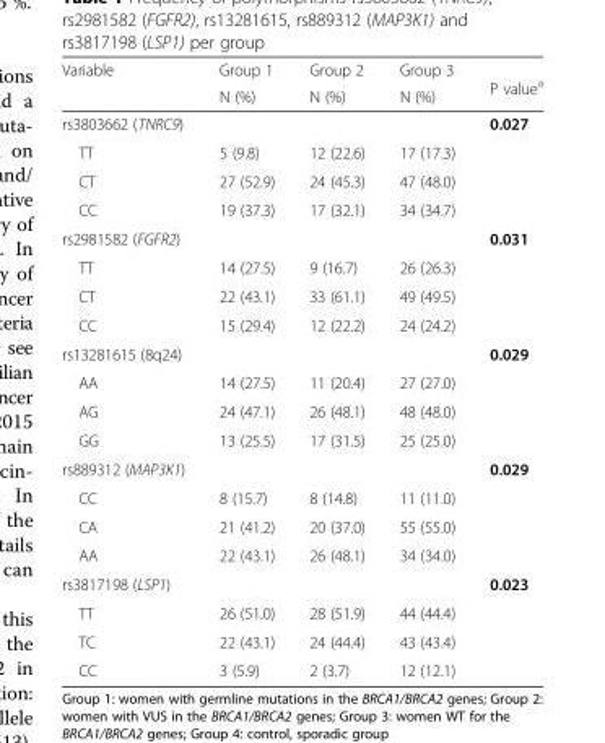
<table><thead><tr><td rowspan="2">Variable</td><td rowspan="2">Group 1 N (%)</td><td rowspan="2">Group 2 N (%)</td><td rowspan="2">Group 3 N (%)</td><td rowspan="2">P value<sup>a</sup></td></tr><tr></tr></thead><tbody><tr><td colspan="4">rs3803662 (TNRC9)</td><td rowspan="4">0.027</td></tr><tr><td>TT</td><td>5 (9.8)</td><td>12 (22.6)</td><td>17 (17.3)</td></tr><tr><td>CT</td><td>27 (52.9)</td><td>24 (45.3)</td><td>47 (48.0)</td></tr><tr><td>CC</td><td>19 (37.3)</td><td>17 (32.1)</td><td>34 (34.7)</td></tr><tr><td colspan="4">rs2981582 (FGFR2)</td><td rowspan="4">0.031</td></tr><tr><td>TT</td><td>14 (27.5)</td><td>9 (16.7)</td><td>26 (26.3)</td></tr><tr><td>CT</td><td>22 (43.1)</td><td>33 (61.1)</td><td>49 (49.5)</td></tr><tr><td>CC</td><td>15 (29.4)</td><td>12 (22.2)</td><td>24 (24.2)</td></tr><tr><td colspan="4">rs13281615 (8q24)</td><td rowspan="4">0.029</td></tr><tr><td>AA</td><td>14 (27.5)</td><td>11 (20.4)</td><td>27 (27.0)</td></tr><tr><td>AG</td><td>24 (47.1)</td><td>26 (48.1)</td><td>48 (48.0)</td></tr><tr><td>GG</td><td>13 (25.5)</td><td>17 (31.5)</td><td>25 (25.0)</td></tr><tr><td colspan="4">rs889312 (MAP3K1)</td><td rowspan="4">0.029</td></tr><tr><td>CC</td><td>8 (15.7)</td><td>8 (14.8)</td><td>11 (11.0)</td></tr><tr><td>CA</td><td>21 (41.2)</td><td>20 (37.0)</td><td>55 (55.0)</td></tr><tr><td>AA</td><td>22 (43.1)</td><td>26 (48.1)</td><td>34 (34.0)</td></tr><tr><td colspan="4">rs3817198 (LSP1)</td><td rowspan="4">0.023</td></tr><tr><td>TT</td><td>26 (51.0)</td><td>28 (51.9)</td><td>44 (44.4)</td></tr><tr><td>TC</td><td>22 (43.1)</td><td>24 (44.4)</td><td>43 (43.4)</td></tr><tr><td>CC</td><td>3 (5.9)</td><td>2 (3.7)</td><td>12 (12.1)</td></tr></tbody></table>